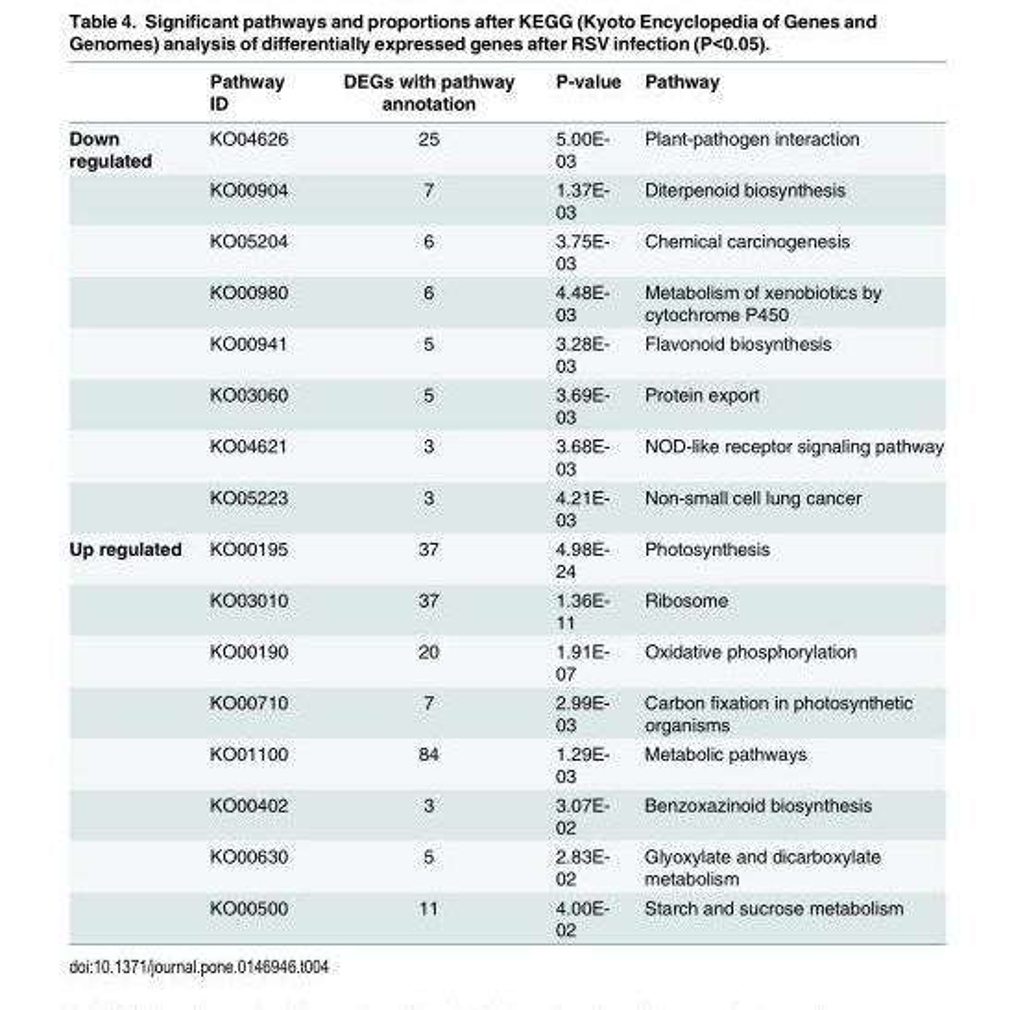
<table><thead><tr><td></td><td>Pathway ID</td><td>DEGs with pathway annotation</td><td>P-value</td><td>Pathway</td></tr></thead><tbody><tr><td rowspan="8">Down regulated</td><td>KO04626</td><td>25</td><td>5.00E- 03</td><td>Plant-pathogen interaction</td></tr><tr><td>KO00904</td><td>7</td><td>1.37E- 03</td><td>Diterpenoid biosynthesis</td></tr><tr><td>KO05204</td><td>6</td><td>3.75E- 03</td><td>Chemical carcinogenesis</td></tr><tr><td>KO00980</td><td>6</td><td>4.48E- 03</td><td>Metabolism of xenobiotics by cytochrome P450</td></tr><tr><td>KO00941</td><td>5</td><td>3.28E- 03</td><td>Flavonoid biosynthesis</td></tr><tr><td>KO03060</td><td>5</td><td>3.69E- 03</td><td>Protein export</td></tr><tr><td>KO04621</td><td>3</td><td>3.68E- 03</td><td>NOD-like receptor signaling pathway</td></tr><tr><td>KO05223</td><td>3</td><td>4.21E- 03</td><td>Non-small cell lung cancer</td></tr><tr><td rowspan="8">Up regulated</td><td>KO00195</td><td>37</td><td>4.98E- 24</td><td>Photosynthesis</td></tr><tr><td>KO03010</td><td>37</td><td>1.36E- 11</td><td>Ribosome</td></tr><tr><td>KO00190</td><td>20</td><td>1.91E- 07</td><td>Oxidative phosphorylation</td></tr><tr><td>KO00710</td><td>7</td><td>2.99E- 03</td><td>Carbon fixation in photosynthetic organisms</td></tr><tr><td>KO01100</td><td>84</td><td>1.29E- 03</td><td>Metabolic pathways</td></tr><tr><td>KO00402</td><td>3</td><td>3.07E- 02</td><td>Benzoxazinoid biosynthesis</td></tr><tr><td>KO00630</td><td>5</td><td>2.83E- 02</td><td>Glyoxylate and dicarboxylate metabolism</td></tr><tr><td>KO00500</td><td>11</td><td>4.00E- 02</td><td>Starch and sucrose metabolism</td></tr></tbody></table>